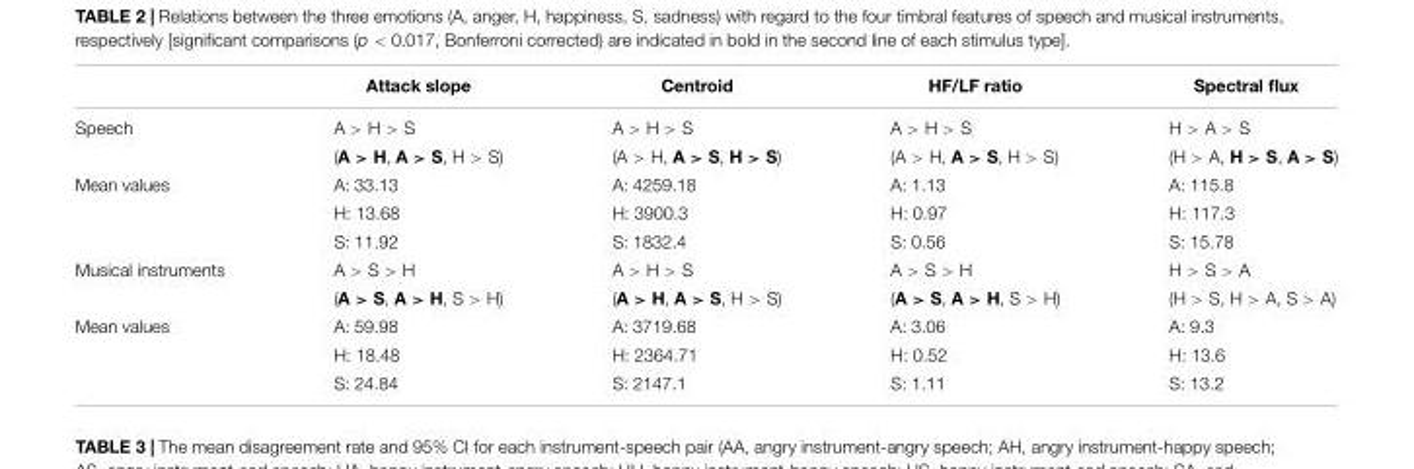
<table><thead><tr><td></td><td>Attack slope</td><td>Centroid</td><td>HF/LF ratio</td><td>Spectral flux</td></tr></thead><tbody><tr><td rowspan="2">Speech</td><td>A &gt; H &gt; S</td><td>A &gt; H &gt; S</td><td>A &gt; H &gt; S</td><td>H &gt; A &gt; S</td></tr><tr><td>(A &gt; H, A &gt; S, H &gt; S)</td><td>(A &gt; H, A &gt; S, H &gt; S)</td><td>(A &gt; H, A &gt; S, H &gt; S)</td><td>(H &gt; A, H &gt; S, A &gt; S)</td></tr><tr><td rowspan="3">Mean values</td><td>A: 33.13</td><td>A: 4259.18</td><td>A: 1.13</td><td>A: 115.8</td></tr><tr><td>H: 13.68</td><td>H: 3900.3</td><td>H: 0.97</td><td>H: 117.3</td></tr><tr><td>S: 11.92</td><td>S: 1832.4</td><td>S: 0.56</td><td>S: 15.78</td></tr><tr><td rowspan="2">Musical instruments</td><td>A &gt; S &gt; H</td><td>A &gt; H &gt; S</td><td>A &gt; S &gt; H</td><td>H &gt; S &gt; A</td></tr><tr><td>(A &gt; S, A &gt; H, S &gt; H)</td><td>(A &gt; H, A &gt; S, H &gt; S)</td><td>(A &gt; S, A &gt; H, S &gt; H)</td><td>(H &gt; S, H &gt; A, S &gt; A)</td></tr><tr><td rowspan="3">Mean values</td><td>A: 59.98</td><td>A: 3719.68</td><td>A: 3.06</td><td>A: 9.3</td></tr><tr><td>H: 18.48</td><td>H: 2364.71</td><td>H: 0.52</td><td>H: 13.6</td></tr><tr><td>S: 24.84</td><td>S: 2147.1</td><td>S: 1.11</td><td>S: 13.2</td></tr></tbody></table>